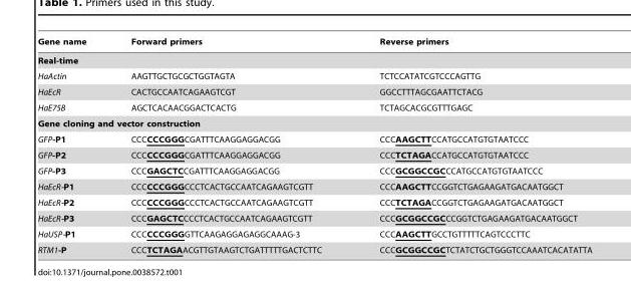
<table><thead><tr><td>Gene name</td><td>Forward primers</td><td>Reverse primers</td></tr></thead><tbody><tr><td colspan="3">Real-time</td></tr><tr><td>HaActin</td><td>AAGTTGCTGCGCTGGTAGTA</td><td>TCTCCATATCGTCCCAGTTG</td></tr><tr><td>HaEcR</td><td>CACTGCCAATCAGAAGTCGT</td><td>GGCCTTTAGCGAATTCTACG</td></tr><tr><td>HaE75B</td><td>AGCTCACAACGGACTCACTG</td><td>TCTAGCACGCGTTTGAGC</td></tr><tr><td colspan="3">Gene cloning and vector construction</td></tr><tr><td>GFP-P1</td><td>CCCCCCGGGCGATTTCAAGGAGGACGG</td><td>CCCAAGCTTCCATGCCATGTGTAATCCC</td></tr><tr><td>GFP-P2</td><td>CCCCCCGGGCGATTTCAAGGAGGACGG</td><td>CCCTCTAGACCATGCCATGTGTAATCCC</td></tr><tr><td>GFP-P3</td><td>CCCGAGCTCCGATTTCAAGGAGGACGG</td><td>CCCGCGGCCGCCCATGCCATGTGTAATCCC</td></tr><tr><td>HaEcR-P1</td><td>CCCCCCGGGCCCTCACTGCCAATCAGAAGTCGTT</td><td>CCCAAGCTTCCGGTCTGAGAAGATGACAATGGCT</td></tr><tr><td>HaEcR-P2</td><td>CCCCCCGGGCCCTCACTGCCAATCAGAAGTCGTT</td><td>CCCTCTAGACCGGTCTGAGAAGATGACAATGGCT</td></tr><tr><td>HaEcR-P3</td><td>CCCGAGCTCCCCTCACTGCCAATCAGAAGTCGTT</td><td>CCCGCGGCCGCCCGGTCTGAGAAGATGACAATGGCT</td></tr><tr><td>HaUSP-P1</td><td>CCCCCCGGGGTTCAAGAGGAGAGGCAAAG-3</td><td>CCCAAGCTTGCCTGTTTTTCAGTCCCTTC</td></tr><tr><td>RTM1-P</td><td>CCCTCTAGAACGTTGTAAGTCTGATTTTTGACTCTTC</td><td>CCCGCGGCCGCTCTATCTGCTGGGTCCAAATCACATATTA</td></tr></tbody></table>